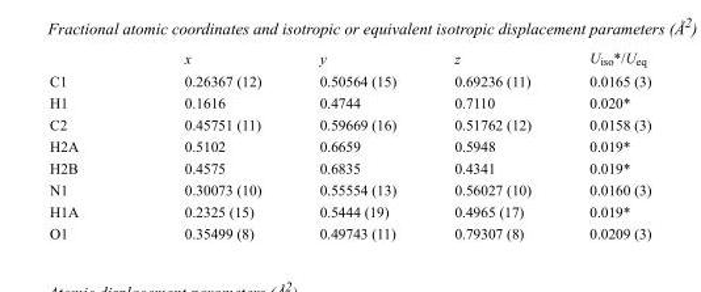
<table><thead><tr><td></td><td>x</td><td>y</td><td>z</td><td>U<sub>iso</sub>*/U<sub>eq</sub></td></tr></thead><tbody><tr><td>C1</td><td>0.26367 (12)</td><td>0.50564 (15)</td><td>0.69236 (11)</td><td>0.0165 (3)</td></tr><tr><td>H1</td><td>0.1616</td><td>0.4744</td><td>0.7110</td><td>0.020*</td></tr><tr><td>C2</td><td>0.45751 (11)</td><td>0.59669 (16)</td><td>0.51762 (12)</td><td>0.0158 (3)</td></tr><tr><td>H2A</td><td>0.5102</td><td>0.6659</td><td>0.5948</td><td>0.019*</td></tr><tr><td>H2B</td><td>0.4575</td><td>0.6835</td><td>0.4341</td><td>0.019*</td></tr><tr><td>N1</td><td>0.30073 (10)</td><td>0.55554 (13)</td><td>0.56027 (10)</td><td>0.0160 (3)</td></tr><tr><td>H1A</td><td>0.2325 (15)</td><td>0.5444 (19)</td><td>0.4965 (17)</td><td>0.019*</td></tr><tr><td>O1</td><td>0.35499 (8)</td><td>0.49743 (11)</td><td>0.79307 (8)</td><td>0.0209 (3)</td></tr></tbody></table>